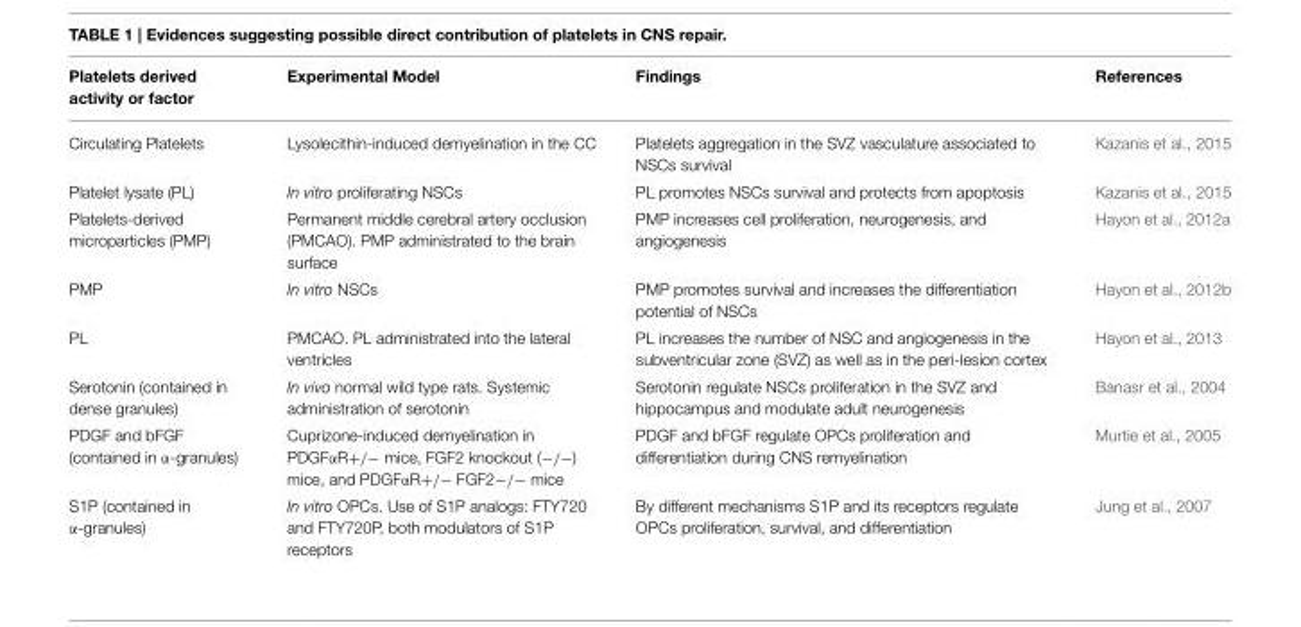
<table><thead><tr><td>Platelets derived activity or factor</td><td>Experimental Model</td><td>Findings</td><td>References</td></tr></thead><tbody><tr><td>Circulating Platelets</td><td>Lysolecithin-induced demyelination in the CC</td><td>Platelets aggregation in the SVZ vasculature associated to NSCs survival</td><td>Kazanis et al., 2015</td></tr><tr><td>Platelet lysate (PL)</td><td>In vitro proliferating NSCs</td><td>PL promotes NSCs survival and protects from apoptosis</td><td>Kazanis et al., 2015</td></tr><tr><td>Platelets-derived microparticles (PMP)</td><td>Permanent middle cerebral artery occlusion (PMCAO). PMP administrated to the brain surface</td><td>PMP increases cell proliferation, neurogenesis, and angiogenesis</td><td>Hayon et al., 2012a</td></tr><tr><td>PMP</td><td>In vitro NSCs</td><td>PMP promotes survival and increases the differentiation potential of NSCs</td><td>Hayon et al., 2012b</td></tr><tr><td>PL</td><td>PMCAO. PL administrated into the lateral ventricles</td><td>PL increases the number of NSC and angiogenesis in the subventricular zone (SVZ) as well as in the peri-lesion cortex</td><td>Hayon et al., 2013</td></tr><tr><td>Serotonin (contained in dense granules)</td><td>In vivo normal wild type rats. Systemic administration of serotonin</td><td>Serotonin regulate NSCs proliferation in the SVZ and hippocampus and modulate adult neurogenesis</td><td>Banasr et al., 2004</td></tr><tr><td>PDGF and bFGF (contained in α-granules)</td><td>Cuprizone-induced demyelination in PDGFαR+/− mice, FGF2 knockout (−/−) mice, and PDGFαR+/− FGF2−/− mice</td><td>PDGF and bFGF regulate OPCs proliferation and differentiation during CNS remyelination</td><td>Murtie et al., 2005</td></tr><tr><td>S1P (contained in α-granules)</td><td>In vitro OPCs. Use of S1P analogs: FTY720 and FTY720P, both modulators of S1P receptors</td><td>By different mechanisms S1P and its receptors regulate OPCs proliferation, survival, and differentiation</td><td>Jung et al., 2007</td></tr></tbody></table>